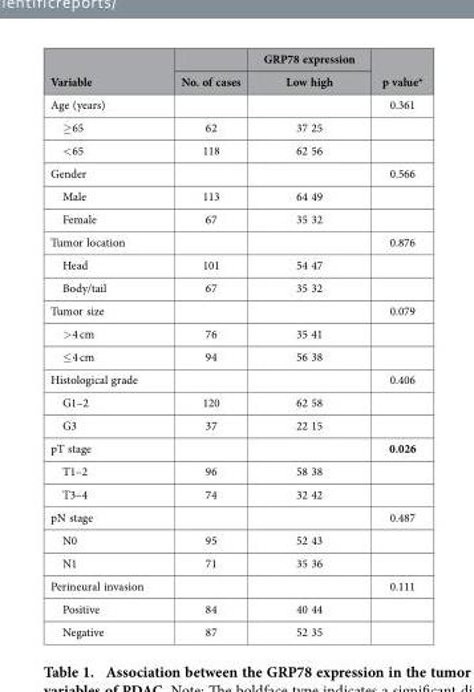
<table><thead><tr><td rowspan="2">Variable</td><td rowspan="2">No. of cases</td><td rowspan="2">GRP78 expression Low high</td><td rowspan="2">p value*</td></tr><tr></tr></thead><tbody><tr><td>Age (years)</td><td></td><td></td><td>0.361</td></tr><tr><td>≥ 65</td><td>62</td><td>37 25</td><td></td></tr><tr><td>&lt; 65</td><td>118</td><td>62 56</td><td></td></tr><tr><td>Gender</td><td></td><td></td><td>0.566</td></tr><tr><td>Male</td><td>113</td><td>64 49</td><td></td></tr><tr><td>Female</td><td>67</td><td>35 32</td><td></td></tr><tr><td>Tumor location</td><td></td><td></td><td>0.876</td></tr><tr><td>Head</td><td>101</td><td>54 47</td><td></td></tr><tr><td>Body/tail</td><td>67</td><td>35 32</td><td></td></tr><tr><td>Tumor size</td><td></td><td></td><td>0.079</td></tr><tr><td>&gt; 4 cm</td><td>76</td><td>35 41</td><td></td></tr><tr><td>≤ 4 cm</td><td>94</td><td>56 38</td><td></td></tr><tr><td>Histological grade</td><td></td><td></td><td>0.406</td></tr><tr><td>G1–2</td><td>120</td><td>62 58</td><td></td></tr><tr><td>G3</td><td>37</td><td>22 15</td><td></td></tr><tr><td>pT stage</td><td></td><td></td><td>0.026</td></tr><tr><td>T1–2</td><td>96</td><td>58 38</td><td></td></tr><tr><td>T3–4</td><td>74</td><td>32 42</td><td></td></tr><tr><td>pN stage</td><td></td><td></td><td>0.487</td></tr><tr><td>N0</td><td>95</td><td>52 43</td><td></td></tr><tr><td>N1</td><td>71</td><td>35 36</td><td></td></tr><tr><td>Perineural invasion</td><td></td><td></td><td>0.111</td></tr><tr><td>Positive</td><td>84</td><td>40 44</td><td></td></tr><tr><td>Negative</td><td>87</td><td>52 35</td><td></td></tr></tbody></table>